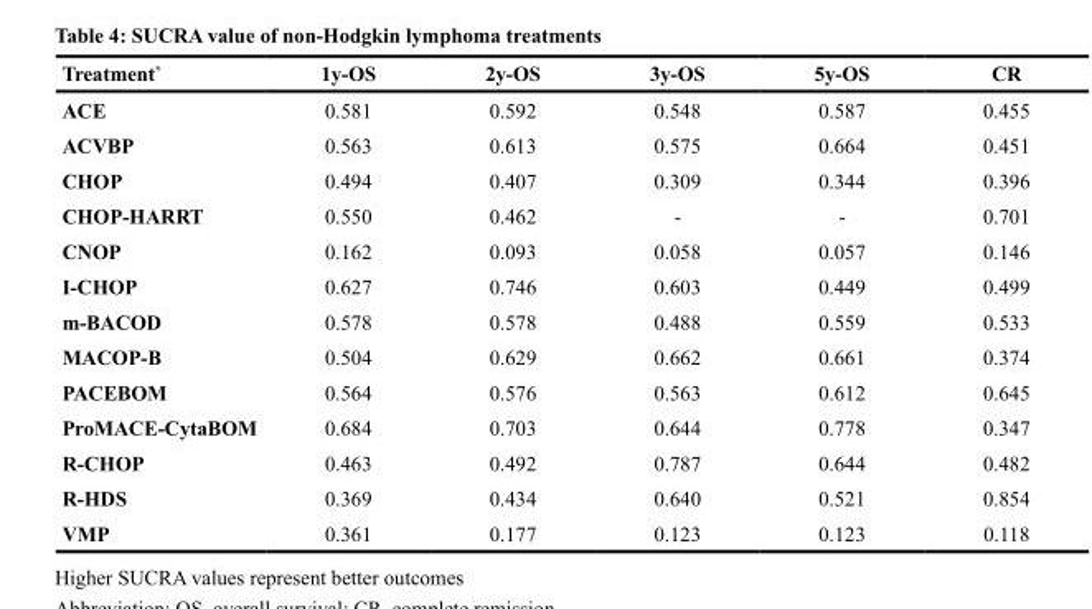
<table><thead><tr><td>Treatment*</td><td>1y-OS</td><td>2y-OS</td><td>3y-OS</td><td>5y-OS</td><td>CR</td></tr></thead><tbody><tr><td>ACE</td><td>0.581</td><td>0.592</td><td>0.548</td><td>0.587</td><td>0.455</td></tr><tr><td>ACVBP</td><td>0.563</td><td>0.613</td><td>0.575</td><td>0.664</td><td>0.451</td></tr><tr><td>CHOP</td><td>0.494</td><td>0.407</td><td>0.309</td><td>0.344</td><td>0.396</td></tr><tr><td>CHOP-HARRT</td><td>0.550</td><td>0.462</td><td>-</td><td>-</td><td>0.701</td></tr><tr><td>CNOP</td><td>0.162</td><td>0.093</td><td>0.058</td><td>0.057</td><td>0.146</td></tr><tr><td>I-CHOP</td><td>0.627</td><td>0.746</td><td>0.603</td><td>0.449</td><td>0.499</td></tr><tr><td>m-BACOD</td><td>0.578</td><td>0.578</td><td>0.488</td><td>0.559</td><td>0.533</td></tr><tr><td>MACOP-B</td><td>0.504</td><td>0.629</td><td>0.662</td><td>0.661</td><td>0.374</td></tr><tr><td>PACEBOM</td><td>0.564</td><td>0.576</td><td>0.563</td><td>0.612</td><td>0.645</td></tr><tr><td>ProMACE-CytaBOM</td><td>0.684</td><td>0.703</td><td>0.644</td><td>0.778</td><td>0.347</td></tr><tr><td>R-CHOP</td><td>0.463</td><td>0.492</td><td>0.787</td><td>0.644</td><td>0.482</td></tr><tr><td>R-HDS</td><td>0.369</td><td>0.434</td><td>0.640</td><td>0.521</td><td>0.854</td></tr><tr><td>VMP</td><td>0.361</td><td>0.177</td><td>0.123</td><td>0.123</td><td>0.118</td></tr></tbody></table>